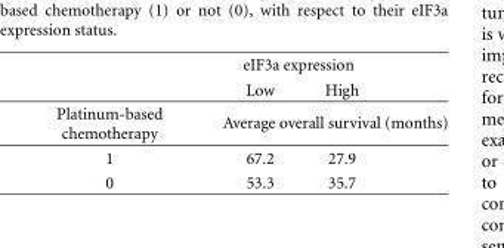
<table><thead><tr><td rowspan="2"></td><td colspan="2">eIF3a expression</td></tr><tr><td>Low</td><td>High</td></tr></thead><tbody><tr><td>Platinum-based chemotherapy</td><td colspan="2">Average overall survival (months)</td></tr><tr><td>1</td><td>67.2</td><td>27.9</td></tr><tr><td>0</td><td>53.3</td><td>35.7</td></tr></tbody></table>